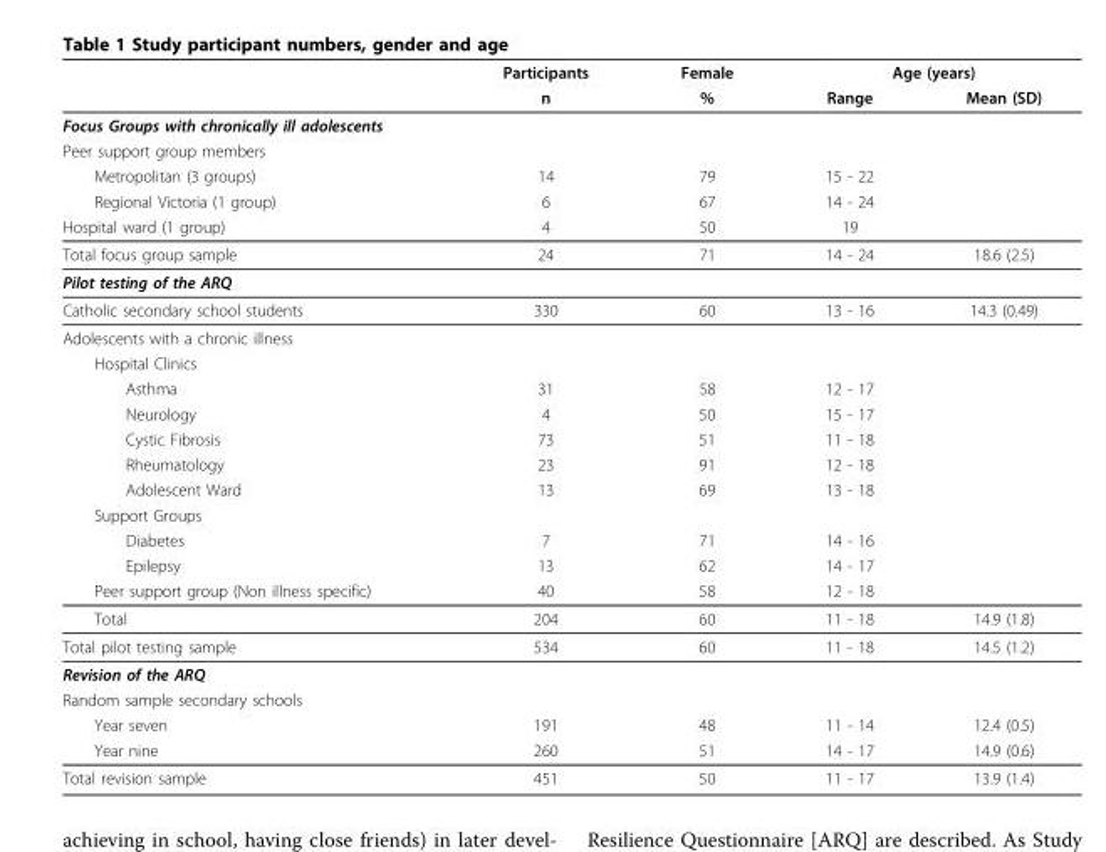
<table><thead><tr><td rowspan="2"></td><td rowspan="2">Participants n</td><td rowspan="2">Female %</td><td colspan="2">Age (years)</td></tr><tr><td>Range</td><td>Mean (SD)</td></tr></thead><tbody><tr><td colspan="5">Focus Groups with chronically ill adolescents</td></tr><tr><td colspan="5">Peer support group members</td></tr><tr><td>Metropolitan (3 groups)</td><td>14</td><td>79</td><td>15 - 22</td><td></td></tr><tr><td>Regional Victoria (1 group)</td><td>6</td><td>67</td><td>14 - 24</td><td></td></tr><tr><td>Hospital ward (1 group)</td><td>4</td><td>50</td><td>19</td><td></td></tr><tr><td>Total focus group sample</td><td>24</td><td>71</td><td>14 - 24</td><td>18.6 (2.5)</td></tr><tr><td colspan="5">Pilot testing of the ARQ</td></tr><tr><td>Catholic secondary school students</td><td>330</td><td>60</td><td>13 - 16</td><td>14.3 (0.49)</td></tr><tr><td colspan="5">Adolescents with a chronic illness</td></tr><tr><td colspan="5">Hospital Clinics</td></tr><tr><td>Asthma</td><td>31</td><td>58</td><td>12 - 17</td><td></td></tr><tr><td>Neurology</td><td>4</td><td>50</td><td>15 - 17</td><td></td></tr><tr><td>Cystic Fibrosis</td><td>73</td><td>51</td><td>11 - 18</td><td></td></tr><tr><td>Rheumatology</td><td>23</td><td>91</td><td>12 - 18</td><td></td></tr><tr><td>Adolescent Ward</td><td>13</td><td>69</td><td>13 - 18</td><td></td></tr><tr><td colspan="5">Support Groups</td></tr><tr><td>Diabetes</td><td>7</td><td>71</td><td>14 - 16</td><td></td></tr><tr><td>Epilepsy</td><td>13</td><td>62</td><td>14 - 17</td><td></td></tr><tr><td>Peer support group (Non illness specific)</td><td>40</td><td>58</td><td>12 - 18</td><td></td></tr><tr><td>Total</td><td>204</td><td>60</td><td>11 - 18</td><td>14.9 (1.8)</td></tr><tr><td>Total pilot testing sample</td><td>534</td><td>60</td><td>11 - 18</td><td>14.5 (1.2)</td></tr><tr><td colspan="5">Revision of the ARQ</td></tr><tr><td colspan="5">Random sample secondary schools</td></tr><tr><td>Year seven</td><td>191</td><td>48</td><td>11 - 14</td><td>12.4 (0.5)</td></tr><tr><td>Year nine</td><td>260</td><td>51</td><td>14 - 17</td><td>14.9 (0.6)</td></tr><tr><td>Total revision sample</td><td>451</td><td>50</td><td>11 - 17</td><td>13.9 (1.4)</td></tr></tbody></table>